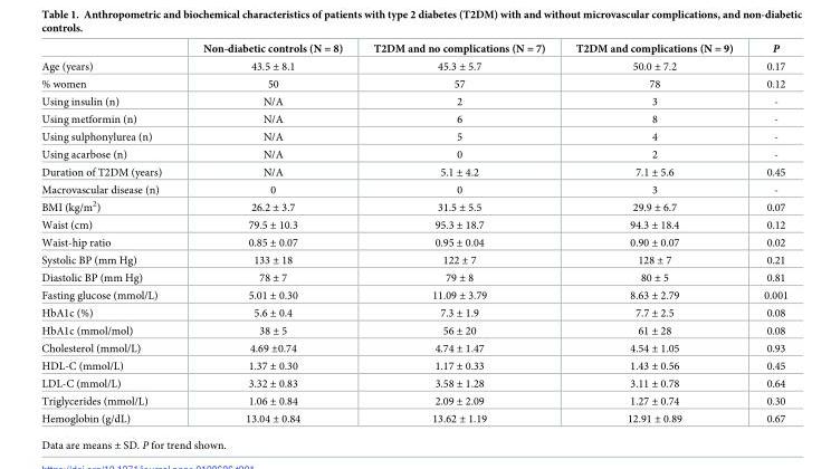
<table><thead><tr><td></td><td>Non-diabetic controls (N = 8)</td><td>T2DM and no complications (N = 7)</td><td>T2DM and complications (N = 9)</td><td>P</td></tr></thead><tbody><tr><td>Age (years)</td><td>43.5 ± 8.1</td><td>45.3 ± 5.7</td><td>50.0 ± 7.2</td><td>0.17</td></tr><tr><td>% women</td><td>50</td><td>57</td><td>78</td><td>0.12</td></tr><tr><td>Using insulin (n)</td><td>N/A</td><td>2</td><td>3</td><td>-</td></tr><tr><td>Using metformin (n)</td><td>N/A</td><td>6</td><td>8</td><td>-</td></tr><tr><td>Using sulphonylurea (n)</td><td>N/A</td><td>5</td><td>4</td><td>-</td></tr><tr><td>Using acarbose (n)</td><td>N/A</td><td>0</td><td>2</td><td>-</td></tr><tr><td>Duration of T2DM (years)</td><td>N/A</td><td>5.1 ± 4.2</td><td>7.1 ± 5.6</td><td>0.45</td></tr><tr><td>Macrovascular disease (n)</td><td>0</td><td>0</td><td>3</td><td>-</td></tr><tr><td>BMI (kg/m<sup>2</sup>)</td><td>26.2 ± 3.7</td><td>31.5 ± 5.5</td><td>29.9 ± 6.7</td><td>0.07</td></tr><tr><td>Waist (cm)</td><td>79.5 ± 10.3</td><td>95.3 ± 18.7</td><td>94.3 ± 18.4</td><td>0.12</td></tr><tr><td>Waist-hip ratio</td><td>0.85 ± 0.07</td><td>0.95 ± 0.04</td><td>0.90 ± 0.07</td><td>0.02</td></tr><tr><td>Systolic BP (mm Hg)</td><td>133 ± 18</td><td>122 ± 7</td><td>128 ± 7</td><td>0.21</td></tr><tr><td>Diastolic BP (mm Hg)</td><td>78 ± 7</td><td>79 ± 8</td><td>80 ± 5</td><td>0.81</td></tr><tr><td>Fasting glucose (mmol/L)</td><td>5.01 ± 0.30</td><td>11.09 ± 3.79</td><td>8.63 ± 2.79</td><td>0.001</td></tr><tr><td>HbA1c (%)</td><td>5.6 ± 0.4</td><td>7.3 ± 1.9</td><td>7.7 ± 2.5</td><td>0.08</td></tr><tr><td>HbA1c (mmol/mol)</td><td>38 ± 5</td><td>56 ± 20</td><td>61 ± 28</td><td>0.08</td></tr><tr><td>Cholesterol (mmol/L)</td><td>4.69 ±0.74</td><td>4.74 ± 1.47</td><td>4.54 ± 1.05</td><td>0.93</td></tr><tr><td>HDL-C (mmol/L)</td><td>1.37 ± 0.30</td><td>1.17 ± 0.33</td><td>1.43 ± 0.56</td><td>0.45</td></tr><tr><td>LDL-C (mmol/L)</td><td>3.32 ± 0.83</td><td>3.58 ± 1.28</td><td>3.11 ± 0.78</td><td>0.64</td></tr><tr><td>Triglycerides (mmol/L)</td><td>1.06 ± 0.84</td><td>2.09 ± 2.09</td><td>1.27 ± 0.74</td><td>0.30</td></tr><tr><td>Hemoglobin (g/dL)</td><td>13.04 ± 0.84</td><td>13.62 ± 1.19</td><td>12.91 ± 0.89</td><td>0.67</td></tr></tbody></table>